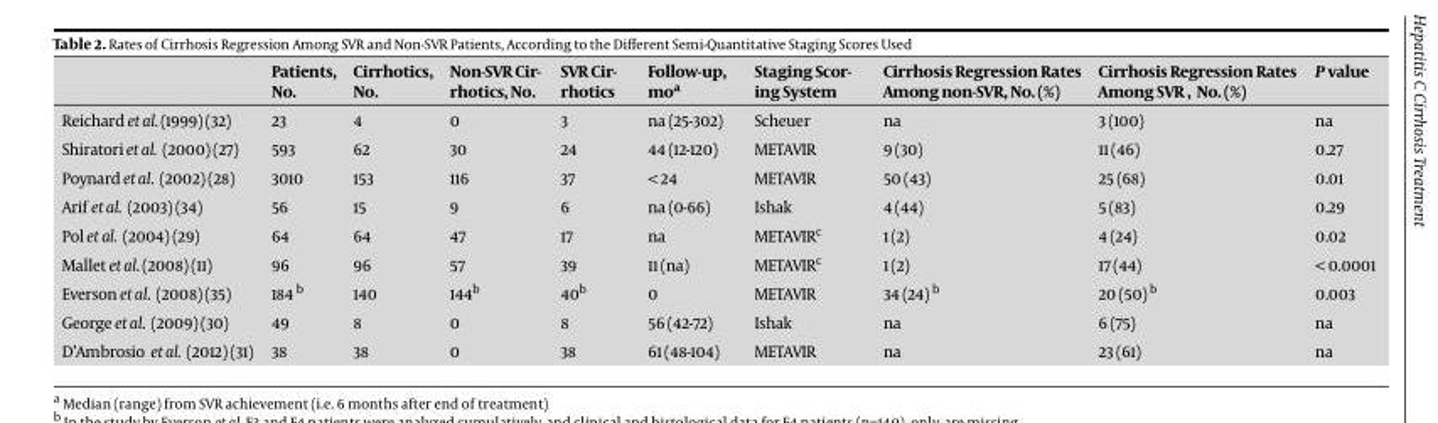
<table><thead><tr><td></td><td>Patients, No.</td><td>Cirrhotics, No.</td><td>Non-SVR Cir- rhotics, No.</td><td>SVR Cir- rhotics</td><td>Follow-up, mo<sup>a</sup></td><td>Staging Scor- ing System</td><td>Cirrhosis Regression Rates Among non-SVR, No. (%)</td><td>Cirrhosis Regression Rates Among SVR , No. (%)</td><td>P value</td></tr></thead><tbody><tr><td>Reichard et al. (1999) (32)</td><td>23</td><td>4</td><td>0</td><td>3</td><td>na (25-302)</td><td>Scheuer</td><td>na</td><td>3 (100)</td><td>na</td></tr><tr><td>Shiratori et al. (2000) (27)</td><td>593</td><td>62</td><td>30</td><td>24</td><td>44 (12-120)</td><td>METAVIR</td><td>9 (30)</td><td>11 (46)</td><td>0.27</td></tr><tr><td>Poynard et al. (2002) (28)</td><td>3010</td><td>153</td><td>116</td><td>37</td><td>&lt; 24</td><td>METAVIR</td><td>50 (43)</td><td>25 (68)</td><td>0.01</td></tr><tr><td>Arif et al. (2003) (34)</td><td>56</td><td>15</td><td>9</td><td>6</td><td>na (0-66)</td><td>Ishak</td><td>4 (44)</td><td>5 (83)</td><td>0.29</td></tr><tr><td>Pol et al. (2004) (29)</td><td>64</td><td>64</td><td>47</td><td>17</td><td>na</td><td>METAVIR<sup>c</sup></td><td>1 (2)</td><td>4 (24)</td><td>0.02</td></tr><tr><td>Mallet et al. (2008) (11)</td><td>96</td><td>96</td><td>57</td><td>39</td><td>11 (na)</td><td>METAVIR<sup>c</sup></td><td>1 (2)</td><td>17 (44)</td><td>&lt; 0.0001</td></tr><tr><td>Everson et al. (2008) (35)</td><td>184 b</td><td>140</td><td>144<sup>b</sup></td><td>40<sup>b</sup></td><td>0</td><td>METAVIR</td><td>34 (24) <sup>b</sup></td><td>20 (50) b</td><td>0.003</td></tr><tr><td>George et al. (2009) (30)</td><td>49</td><td>8</td><td>0</td><td>8</td><td>56 (42-72)</td><td>Ishak</td><td>na</td><td>6 (75)</td><td>na</td></tr><tr><td>D’Ambrosio et al. (2012) (31)</td><td>38</td><td>38</td><td>0</td><td>38</td><td>61 (48-104)</td><td>METAVIR</td><td>na</td><td>23 (61)</td><td>na</td></tr></tbody></table>